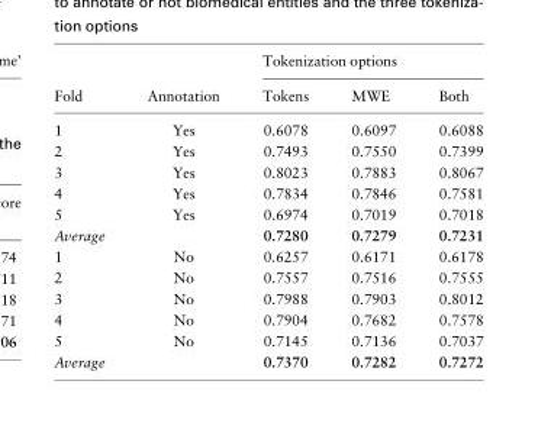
<table><thead><tr><td rowspan="2">Fold</td><td rowspan="2">Annotation</td><td colspan="3">Tokenization options</td></tr><tr><td>Tokens</td><td>MWE</td><td>Both</td></tr></thead><tbody><tr><td>1</td><td>Yes</td><td>0.6078</td><td>0.6097</td><td>0.6088</td></tr><tr><td>2</td><td>Yes</td><td>0.7493</td><td>0.7550</td><td>0.7399</td></tr><tr><td>3</td><td>Yes</td><td>0.8023</td><td>0.7883</td><td>0.8067</td></tr><tr><td>4</td><td>Yes</td><td>0.7834</td><td>0.7846</td><td>0.7581</td></tr><tr><td>5</td><td>Yes</td><td>0.6974</td><td>0.7019</td><td>0.7018</td></tr><tr><td>Average</td><td></td><td>0.7280</td><td>0.7279</td><td>0.7231</td></tr><tr><td>1</td><td>No</td><td>0.6257</td><td>0.6171</td><td>0.6178</td></tr><tr><td>2</td><td>No</td><td>0.7557</td><td>0.7516</td><td>0.7555</td></tr><tr><td>3</td><td>No</td><td>0.7988</td><td>0.7903</td><td>0.8012</td></tr><tr><td>4</td><td>No</td><td>0.7904</td><td>0.7682</td><td>0.7578</td></tr><tr><td>5</td><td>No</td><td>0.7145</td><td>0.7136</td><td>0.7037</td></tr><tr><td>Average</td><td></td><td>0.7370</td><td>0.7282</td><td>0.7272</td></tr></tbody></table>